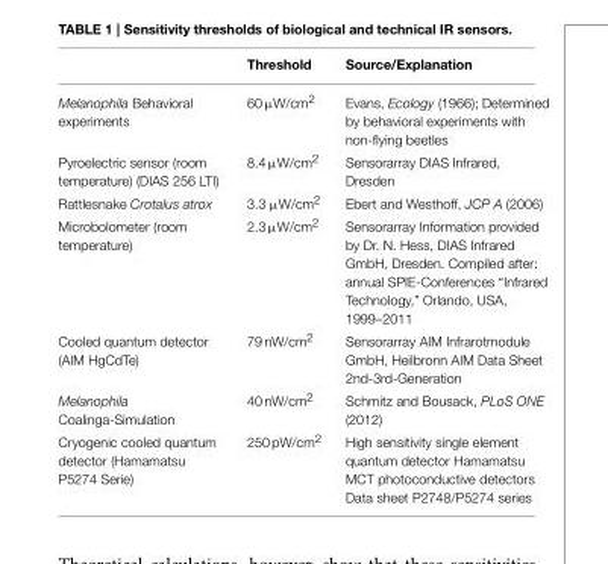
<table><thead><tr><td></td><td>Threshold</td><td>Source/Explanation</td></tr></thead><tbody><tr><td>Melanophila Behavioral experiments</td><td>60 µW/cm<sup>2</sup></td><td>Evans, Ecology (1966); Determined by behavioral experiments with non-flying beetles</td></tr><tr><td>Pyroelectric sensor (room temperature) (DIAS 256 LTI)</td><td>8.4 µW/cm<sup>2</sup></td><td>Sensorarray DIAS Infrared, Dresden</td></tr><tr><td>Rattlesnake Crotalus atrox</td><td>3.3 µW/cm<sup>2</sup></td><td>Ebert and Westhoff, JCP A (2006)</td></tr><tr><td>Microbolometer (room temperature)</td><td>2.3 µW/cm<sup>2</sup></td><td>Sensorarray Information provided by Dr. N. Hess, DIAS Infrared GmbH, Dresden. Compiled after: annual SPIE-Conferences “Infrared Technology,” Orlando, USA, 1999–2011</td></tr><tr><td>Cooled quantum detector (AIM HgCdTe)</td><td>79 nW/cm<sup>2</sup></td><td>Sensorarray AIM Infrarotmodule GmbH, Heilbronn AIM Data Sheet 2nd-3rd-Generation</td></tr><tr><td>Melanophila Coalinga-Simulation</td><td>40 nW/cm<sup>2</sup></td><td>Schmitz and Bousack, PLoS ONE (2012)</td></tr><tr><td>Cryogenic cooled quantum detector (Hamamatsu P5274 Serie)</td><td>250 pW/cm<sup>2</sup></td><td>High sensitivity single element quantum detector Hamamatsu MCT photoconductive detectors Data sheet P2748/P5274 series</td></tr></tbody></table>